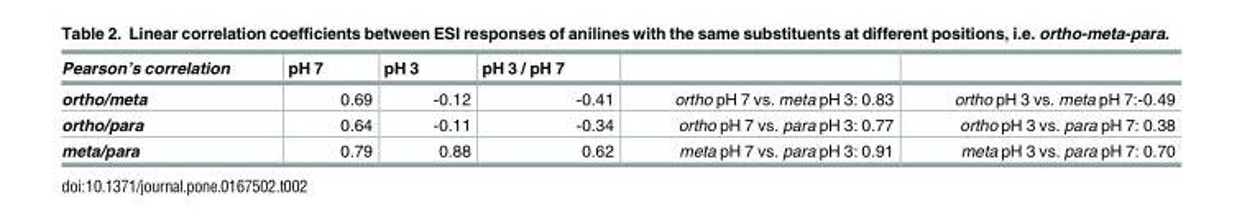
<table><thead><tr><td>Pearson’s correlation</td><td>pH 7</td><td>pH 3</td><td>pH 3 / pH 7</td><td></td><td></td></tr></thead><tbody><tr><td>ortho/meta</td><td>0.69</td><td>-0.12</td><td>-0.41</td><td>ortho pH 7 vs. meta pH 3: 0.83</td><td>ortho pH 3 vs. meta pH 7:-0.49</td></tr><tr><td>ortho/para</td><td>0.64</td><td>-0.11</td><td>-0.34</td><td>ortho pH 7 vs. para pH 3: 0.77</td><td>ortho pH 3 vs. para pH 7: 0.38</td></tr><tr><td>meta/para</td><td>0.79</td><td>0.88</td><td>0.62</td><td>meta pH 7 vs. para pH 3: 0.91</td><td>meta pH 3 vs. para pH 7: 0.70</td></tr></tbody></table>